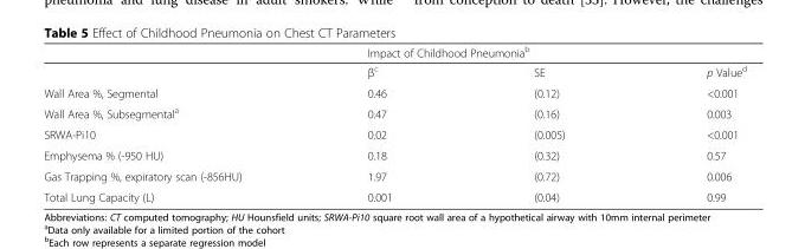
<table><thead><tr><td rowspan="2"></td><td colspan="3">Impact of Childhood Pneumonia<sup>b</sup></td></tr><tr><td>β<sup>c</sup></td><td>SE</td><td>p Value<sup>d</sup></td></tr></thead><tbody><tr><td>Wall Area %, Segmental</td><td>0.46</td><td>(0.12)</td><td>&lt;0.001</td></tr><tr><td>Wall Area %, Subsegmental<sup>a</sup></td><td>0.47</td><td>(0.16)</td><td>0.003</td></tr><tr><td>SRWA-Pi10</td><td>0.02</td><td>(0.005)</td><td>&lt;0.001</td></tr><tr><td>Emphysema % (-950 HU)</td><td>0.18</td><td>(0.32)</td><td>0.57</td></tr><tr><td>Gas Trapping %, expiratory scan (-856HU)</td><td>1.97</td><td>(0.72)</td><td>0.006</td></tr><tr><td>Total Lung Capacity (L)</td><td>0.001</td><td>(0.04)</td><td>0.99</td></tr></tbody></table>